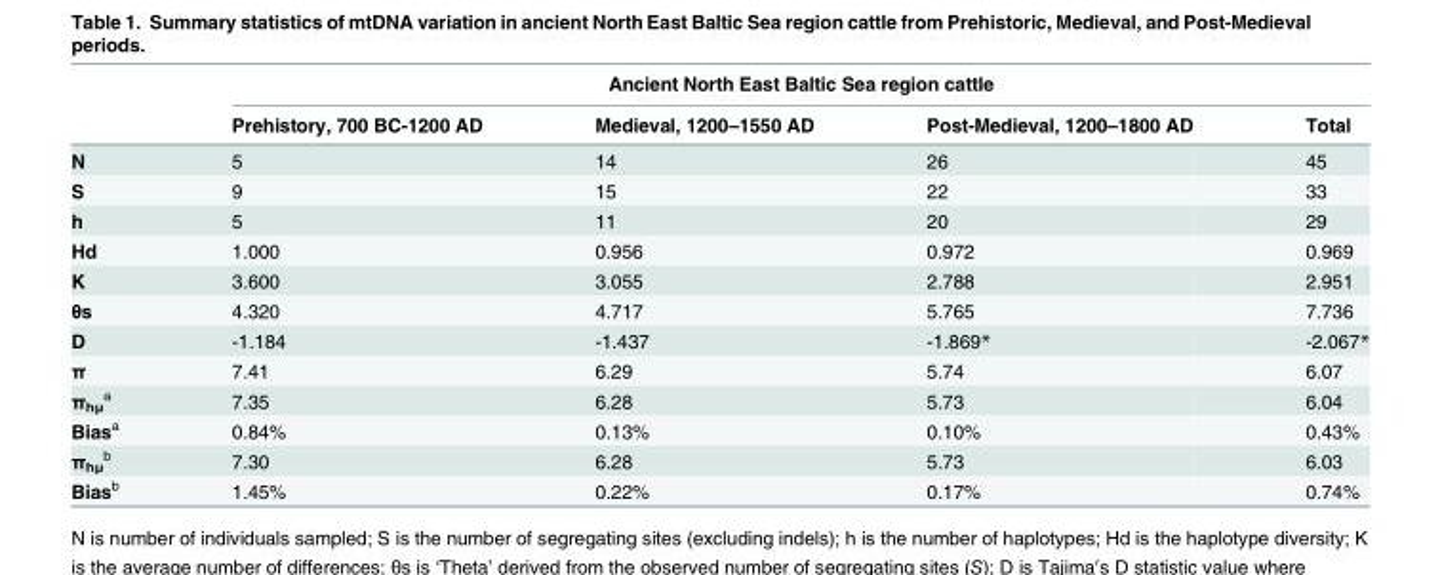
<table><thead><tr><td rowspan="2"></td><td colspan="4">Ancient North East Baltic Sea region cattle</td></tr><tr><td>Prehistory, 700 BC-1200 AD</td><td>Medieval, 1200–1550 AD</td><td>Post-Medieval, 1200–1800 AD</td><td>Total</td></tr></thead><tbody><tr><td>N</td><td>5</td><td>14</td><td>26</td><td>45</td></tr><tr><td>S</td><td>9</td><td>15</td><td>22</td><td>33</td></tr><tr><td>h</td><td>5</td><td>11</td><td>20</td><td>29</td></tr><tr><td>Hd</td><td>1.000</td><td>0.956</td><td>0.972</td><td>0.969</td></tr><tr><td>K</td><td>3.600</td><td>3.055</td><td>2.788</td><td>2.951</td></tr><tr><td>θs</td><td>4.320</td><td>4.717</td><td>5.765</td><td>7.736</td></tr><tr><td>D</td><td>-1.184</td><td>-1.437</td><td>-1.869*</td><td>-2.067*</td></tr><tr><td>π</td><td>7.41</td><td>6.29</td><td>5.74</td><td>6.07</td></tr><tr><td>π<sub>hμ</sub> <sup>a</sup></td><td>7.35</td><td>6.28</td><td>5.73</td><td>6.04</td></tr><tr><td>Bias<sup>a</sup></td><td>0.84%</td><td>0.13%</td><td>0.10%</td><td>0.43%</td></tr><tr><td>π<sub>hμ</sub> <sup>b</sup></td><td>7.30</td><td>6.28</td><td>5.73</td><td>6.03</td></tr><tr><td>Bias<sup>b</sup></td><td>1.45%</td><td>0.22%</td><td>0.17%</td><td>0.74%</td></tr></tbody></table>